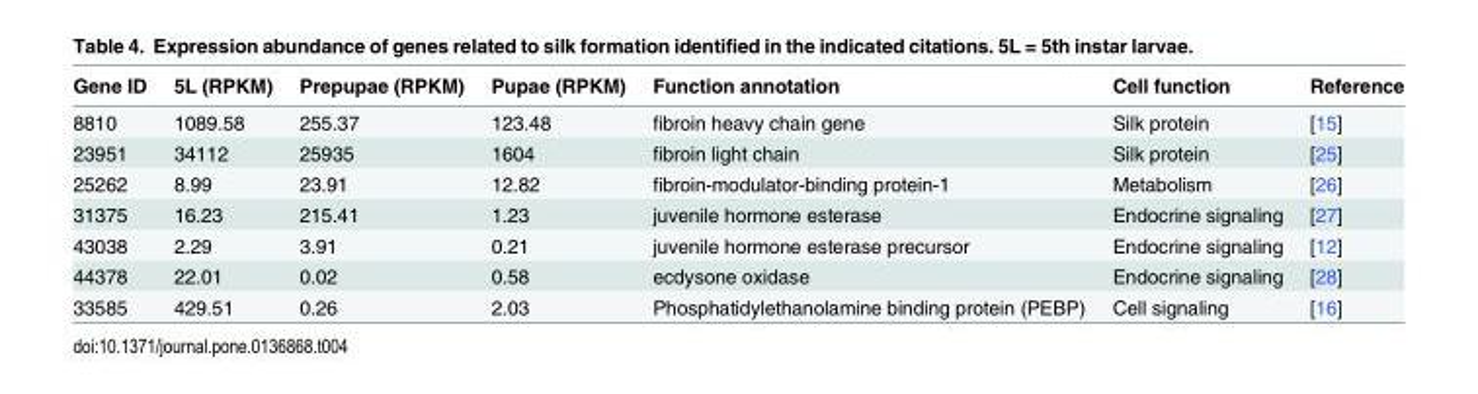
<table><thead><tr><td>Gene ID</td><td>5L (RPKM)</td><td>Prepupae (RPKM)</td><td>Pupae (RPKM)</td><td>Function annotation</td><td>Cell function</td><td>Reference</td></tr></thead><tbody><tr><td>8810</td><td>1089.58</td><td>255.37</td><td>123.48</td><td>fibroin heavy chain gene</td><td>Silk protein</td><td>[15]</td></tr><tr><td>23951</td><td>34112</td><td>25935</td><td>1604</td><td>fibroin light chain</td><td>Silk protein</td><td>[25]</td></tr><tr><td>25262</td><td>8.99</td><td>23.91</td><td>12.82</td><td>fibroin-modulator-binding protein-1</td><td>Metabolism</td><td>[26]</td></tr><tr><td>31375</td><td>16.23</td><td>215.41</td><td>1.23</td><td>juvenile hormone esterase</td><td>Endocrine signaling</td><td>[27]</td></tr><tr><td>43038</td><td>2.29</td><td>3.91</td><td>0.21</td><td>juvenile hormone esterase precursor</td><td>Endocrine signaling</td><td>[12]</td></tr><tr><td>44378</td><td>22.01</td><td>0.02</td><td>0.58</td><td>ecdysone oxidase</td><td>Endocrine signaling</td><td>[28]</td></tr><tr><td>33585</td><td>429.51</td><td>0.26</td><td>2.03</td><td>Phosphatidylethanolamine binding protein (PEBP)</td><td>Cell signaling</td><td>[16]</td></tr></tbody></table>